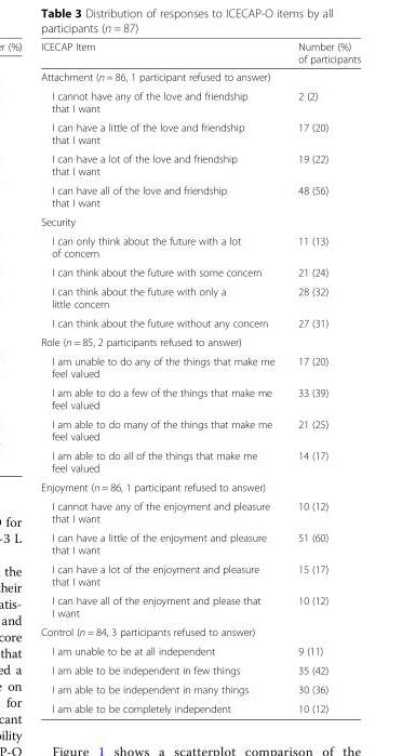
<table><thead><tr><td>ICECAP Item</td><td>Number (%) of participants</td></tr></thead><tbody><tr><td colspan="2">Attachment (n = 86, 1 participant refused to answer)</td></tr><tr><td>I cannot have any of the love and friendship that I want</td><td>2 (2)</td></tr><tr><td>I can have a little of the love and friendship that I want</td><td>17 (20)</td></tr><tr><td>I can have a lot of the love and friendship that I want</td><td>19 (22)</td></tr><tr><td>I can have all of the love and friendship that I want</td><td>48 (56)</td></tr><tr><td colspan="2">Security</td></tr><tr><td>I can only think about the future with a lot of concern</td><td>11 (13)</td></tr><tr><td>I can think about the future with some concern</td><td>21 (24)</td></tr><tr><td>I can think about the future with only a little concern</td><td>28 (32)</td></tr><tr><td>I can think about the future without any concern</td><td>27 (31)</td></tr><tr><td colspan="2">Role (n = 85, 2 participants refused to answer)</td></tr><tr><td>I am unable to do any of the things that make me feel valued</td><td>17 (20)</td></tr><tr><td>I am able to do a few of the things that make me feel valued</td><td>33 (39)</td></tr><tr><td>I am able to do many of the things that make me feel valued</td><td>21 (25)</td></tr><tr><td>I am able to do all of the things that make me feel valued</td><td>14 (17)</td></tr><tr><td colspan="2">Enjoyment (n = 86, 1 participant refused to answer)</td></tr><tr><td>I cannot have any of the enjoyment and pleasure that I want</td><td>10 (12)</td></tr><tr><td>I can have a little of the enjoyment and pleasure that I want</td><td>51 (60)</td></tr><tr><td>I can have a lot of the enjoyment and pleasure that I want</td><td>15 (17)</td></tr><tr><td>I can have all of the enjoyment and please that I want</td><td>10 (12)</td></tr><tr><td colspan="2">Control (n = 84, 3 participants refused to answer)</td></tr><tr><td>I am unable to be at all independent</td><td>9 (11)</td></tr><tr><td>I am able to be independent in few things</td><td>35 (42)</td></tr><tr><td>I am able to be independent in many things</td><td>30 (36)</td></tr><tr><td>I am able to be completely independent</td><td>10 (12)</td></tr></tbody></table>